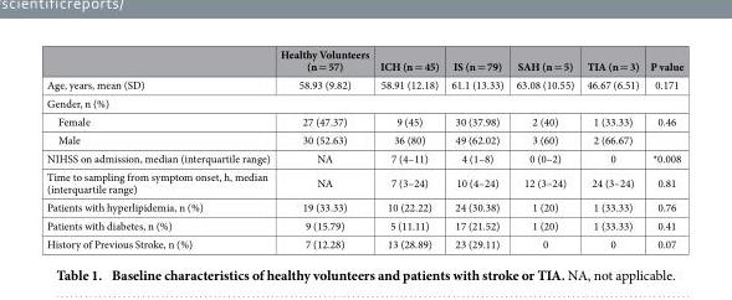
<table><thead><tr><td></td><td>Healthy Volunteers (n = 57)</td><td>ICH (n = 45)</td><td>IS (n = 79)</td><td>SAH (n = 5)</td><td>TIA (n = 3)</td><td>P value</td></tr></thead><tbody><tr><td>Age, years, mean (SD)</td><td>58.93 (9.82)</td><td>58.91 (12.18)</td><td>61.1 (13.33)</td><td>63.08 (10.55)</td><td>46.67 (6.51)</td><td>0.171</td></tr><tr><td colspan="7">Gender, n (%)</td></tr><tr><td>Female</td><td>27 (47.37)</td><td>9 (45)</td><td>30 (37.98)</td><td>2 (40)</td><td>1 (33.33)</td><td>0.46</td></tr><tr><td>Male</td><td>30 (52.63)</td><td>36 (80)</td><td>49 (62.02)</td><td>3 (60)</td><td>2 (66.67)</td><td></td></tr><tr><td>NIHSS on admission, median (interquartile range)</td><td>NA</td><td>7 (4–11)</td><td>4 (1–8)</td><td>0 (0–2)</td><td>0</td><td>*0.008</td></tr><tr><td>Time to sampling from symptom onset, h, median (interquartile range)</td><td>NA</td><td>7 (3–24)</td><td>10 (4–24)</td><td>12 (3–24)</td><td>24 (3–24)</td><td>0.81</td></tr><tr><td>Patients with hyperlipidemia, n (%)</td><td>19 (33.33)</td><td>10 (22.22)</td><td>24 (30.38)</td><td>1 (20)</td><td>1 (33.33)</td><td>0.76</td></tr><tr><td>Patients with diabetes, n (%)</td><td>9 (15.79)</td><td>5 (11.11)</td><td>17 (21.52)</td><td>1 (20)</td><td>1 (33.33)</td><td>0.41</td></tr><tr><td>History of Previous Stroke, n (%)</td><td>7 (12.28)</td><td>13 (28.89)</td><td>23 (29.11)</td><td>0</td><td>0</td><td>0.07</td></tr></tbody></table>